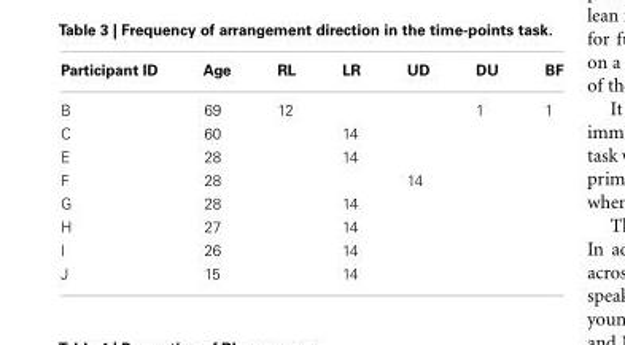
<table><thead><tr><td>Participant ID</td><td>Age</td><td>RL</td><td>LR</td><td>UD</td><td>DU</td><td>BF</td></tr></thead><tbody><tr><td>B</td><td>69</td><td>12</td><td></td><td></td><td>1</td><td>1</td></tr><tr><td>C</td><td>60</td><td></td><td>14</td><td></td><td></td><td></td></tr><tr><td>E</td><td>28</td><td></td><td>14</td><td></td><td></td><td></td></tr><tr><td>F</td><td>28</td><td></td><td></td><td>14</td><td></td><td></td></tr><tr><td>G</td><td>28</td><td></td><td>14</td><td></td><td></td><td></td></tr><tr><td>H</td><td>27</td><td></td><td>14</td><td></td><td></td><td></td></tr><tr><td>I</td><td>26</td><td></td><td>14</td><td></td><td></td><td></td></tr><tr><td>J</td><td>15</td><td></td><td>14</td><td></td><td></td><td></td></tr></tbody></table>